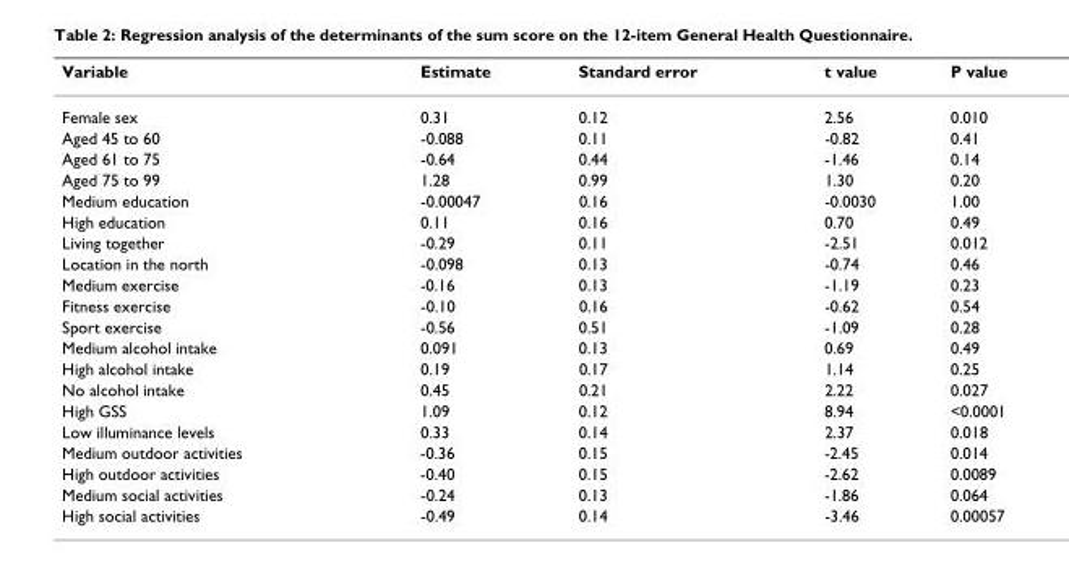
<table><thead><tr><td>Variable</td><td>Estimate</td><td>Standard error</td><td>t value</td><td>P value</td></tr></thead><tbody><tr><td>Female sex</td><td>0.31</td><td>0.12</td><td>2.56</td><td>0.010</td></tr><tr><td>Aged 45 to 60</td><td>-0.088</td><td>0.11</td><td>-0.82</td><td>0.41</td></tr><tr><td>Aged 61 to 75</td><td>-0.64</td><td>0.44</td><td>-1.46</td><td>0.14</td></tr><tr><td>Aged 75 to 99</td><td>1.28</td><td>0.99</td><td>1.30</td><td>0.20</td></tr><tr><td>Medium education</td><td>-0.00047</td><td>0.16</td><td>-0.0030</td><td>1.00</td></tr><tr><td>High education</td><td>0.11</td><td>0.16</td><td>0.70</td><td>0.49</td></tr><tr><td>Living together</td><td>-0.29</td><td>0.11</td><td>-2.51</td><td>0.012</td></tr><tr><td>Location in the north</td><td>-0.098</td><td>0.13</td><td>-0.74</td><td>0.46</td></tr><tr><td>Medium exercise</td><td>-0.16</td><td>0.13</td><td>-1.19</td><td>0.23</td></tr><tr><td>Fitness exercise</td><td>-0.10</td><td>0.16</td><td>-0.62</td><td>0.54</td></tr><tr><td>Sport exercise</td><td>-0.56</td><td>0.51</td><td>-1.09</td><td>0.28</td></tr><tr><td>Medium alcohol intake</td><td>0.091</td><td>0.13</td><td>0.69</td><td>0.49</td></tr><tr><td>High alcohol intake</td><td>0.19</td><td>0.17</td><td>1.14</td><td>0.25</td></tr><tr><td>No alcohol intake</td><td>0.45</td><td>0.21</td><td>2.22</td><td>0.027</td></tr><tr><td>High GSS</td><td>1.09</td><td>0.12</td><td>8.94</td><td>&lt;0.0001</td></tr><tr><td>Low illuminance levels</td><td>0.33</td><td>0.14</td><td>2.37</td><td>0.018</td></tr><tr><td>Medium outdoor activities</td><td>-0.36</td><td>0.15</td><td>-2.45</td><td>0.014</td></tr><tr><td>High outdoor activities</td><td>-0.40</td><td>0.15</td><td>-2.62</td><td>0.0089</td></tr><tr><td>Medium social activities</td><td>-0.24</td><td>0.13</td><td>-1.86</td><td>0.064</td></tr><tr><td>High social activities</td><td>-0.49</td><td>0.14</td><td>-3.46</td><td>0.00057</td></tr></tbody></table>